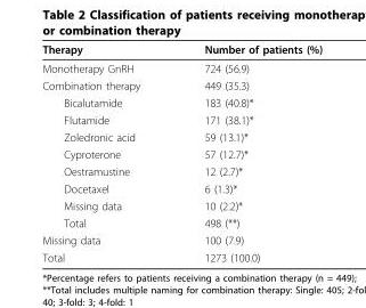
<table><thead><tr><td>Therapy</td><td>Number of patients (%)</td></tr></thead><tbody><tr><td>Monotherapy GnRH</td><td>724 (56.9)</td></tr><tr><td>Combination therapy</td><td>449 (35.3)</td></tr><tr><td>Bicalutamide</td><td>183 (40.8)*</td></tr><tr><td>Flutamide</td><td>171 (38.1)*</td></tr><tr><td>Zoledronic acid</td><td>59 (13.1)*</td></tr><tr><td>Cyproterone</td><td>57 (12.7)*</td></tr><tr><td>Oestramustine</td><td>12 (2.7)*</td></tr><tr><td>Docetaxel</td><td>6 (1.3)*</td></tr><tr><td>Missing data</td><td>10 (2.2)*</td></tr><tr><td>Total</td><td>498 (**)</td></tr><tr><td>Missing data</td><td>100 (7.9)</td></tr><tr><td>Total</td><td>1273 (100.0)</td></tr></tbody></table>